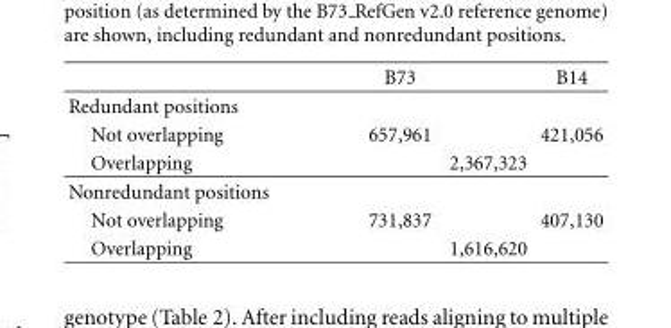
<table><thead><tr><td></td><td>B73</td><td>B14</td></tr></thead><tbody><tr><td colspan="3">Redundant positions</td></tr><tr><td>Not overlapping</td><td>657,961</td><td>421,056</td></tr><tr><td>Overlapping</td><td colspan="2">2,367,323</td></tr><tr><td colspan="3">Nonredundant positions</td></tr><tr><td>Not overlapping</td><td>731,837</td><td>407,130</td></tr><tr><td>Overlapping</td><td colspan="2">1,616,620</td></tr></tbody></table>